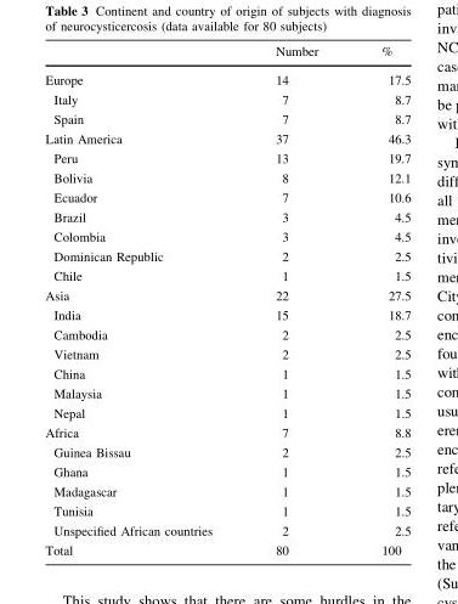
<table><thead><tr><td></td><td>Number</td><td>%</td></tr></thead><tbody><tr><td>Europe</td><td>14</td><td>17.5</td></tr><tr><td>Italy</td><td>7</td><td>8.7</td></tr><tr><td>Spain</td><td>7</td><td>8.7</td></tr><tr><td>Latin America</td><td>37</td><td>46.3</td></tr><tr><td>Peru</td><td>13</td><td>19.7</td></tr><tr><td>Bolivia</td><td>8</td><td>12.1</td></tr><tr><td>Ecuador</td><td>7</td><td>10.6</td></tr><tr><td>Brazil</td><td>3</td><td>4.5</td></tr><tr><td>Colombia</td><td>3</td><td>4.5</td></tr><tr><td>Dominican Republic</td><td>2</td><td>2.5</td></tr><tr><td>Chile</td><td>1</td><td>1.5</td></tr><tr><td>Asia</td><td>22</td><td>27.5</td></tr><tr><td>India</td><td>15</td><td>18.7</td></tr><tr><td>Cambodia</td><td>2</td><td>2.5</td></tr><tr><td>Vietnam</td><td>2</td><td>2.5</td></tr><tr><td>China</td><td>1</td><td>1.5</td></tr><tr><td>Malaysia</td><td>1</td><td>1.5</td></tr><tr><td>Nepal</td><td>1</td><td>1.5</td></tr><tr><td>Africa</td><td>7</td><td>8.8</td></tr><tr><td>Guinea Bissau</td><td>2</td><td>2.5</td></tr><tr><td>Ghana</td><td>1</td><td>1.5</td></tr><tr><td>Madagascar</td><td>1</td><td>1.5</td></tr><tr><td>Tunisia</td><td>1</td><td>1.5</td></tr><tr><td>Unspecified African countries</td><td>2</td><td>2.5</td></tr><tr><td>Total</td><td>80</td><td>100</td></tr></tbody></table>